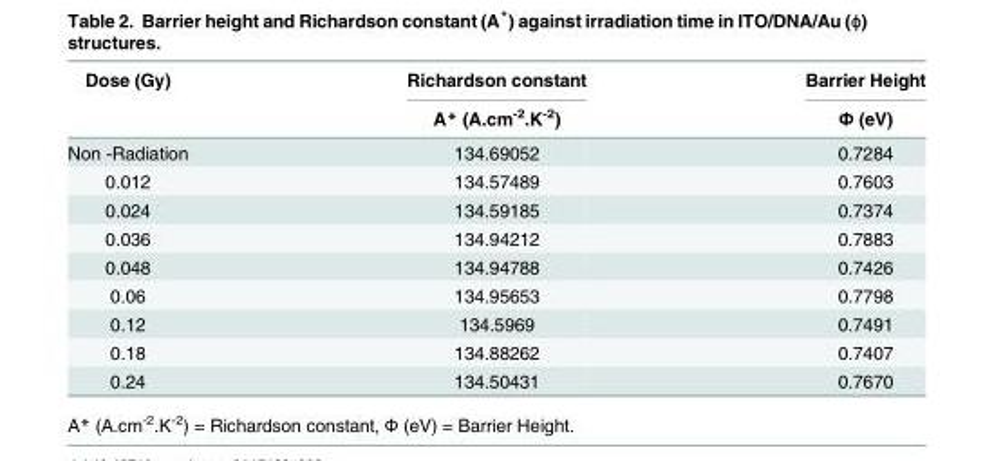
<table><thead><tr><td rowspan="2">Dose (Gy)</td><td rowspan="2">Richardson constant A* (A.cm<sup>-2</sup>.K<sup>-2</sup>)</td><td rowspan="2">Barrier Height Ф (eV)</td></tr><tr></tr></thead><tbody><tr><td>Non -Radiation</td><td>134.69052</td><td>0.7284</td></tr><tr><td>0.012</td><td>134.57489</td><td>0.7603</td></tr><tr><td>0.024</td><td>134.59185</td><td>0.7374</td></tr><tr><td>0.036</td><td>134.94212</td><td>0.7883</td></tr><tr><td>0.048</td><td>134.94788</td><td>0.7426</td></tr><tr><td>0.06</td><td>134.95653</td><td>0.7798</td></tr><tr><td>0.12</td><td>134.5969</td><td>0.7491</td></tr><tr><td>0.18</td><td>134.88262</td><td>0.7407</td></tr><tr><td>0.24</td><td>134.50431</td><td>0.7670</td></tr></tbody></table>